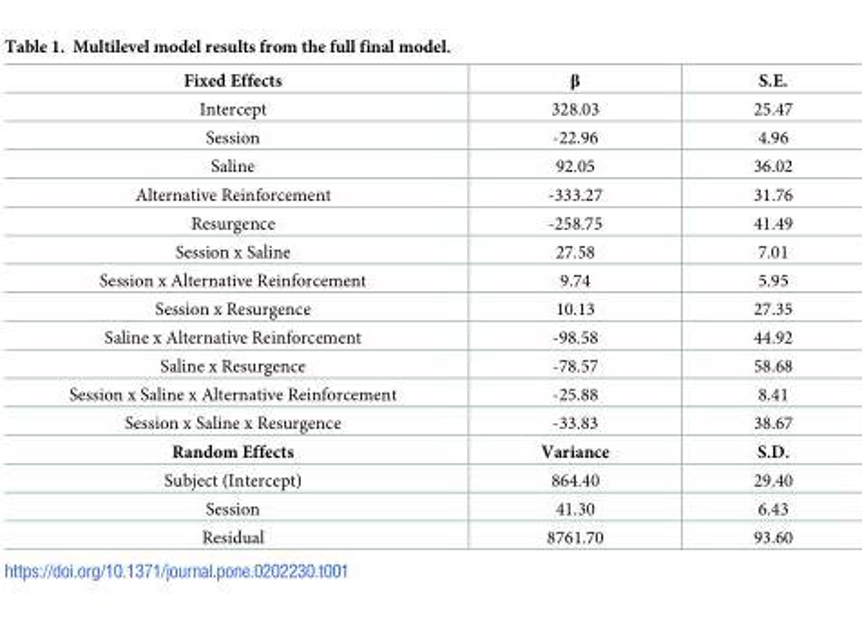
<table><thead><tr><td>Fixed Effects</td><td>β</td><td>S.E.</td></tr></thead><tbody><tr><td>Intercept</td><td>328.03</td><td>25.47</td></tr><tr><td>Session</td><td>-22.96</td><td>4.96</td></tr><tr><td>Saline</td><td>92.05</td><td>36.02</td></tr><tr><td>Alternative Reinforcement</td><td>-333.27</td><td>31.76</td></tr><tr><td>Resurgence</td><td>-258.75</td><td>41.49</td></tr><tr><td>Session x Saline</td><td>27.58</td><td>7.01</td></tr><tr><td>Session x Alternative Reinforcement</td><td>9.74</td><td>5.95</td></tr><tr><td>Session x Resurgence</td><td>10.13</td><td>27.35</td></tr><tr><td>Saline x Alternative Reinforcement</td><td>-98.58</td><td>44.92</td></tr><tr><td>Saline x Resurgence</td><td>-78.57</td><td>58.68</td></tr><tr><td>Session x Saline x Alternative Reinforcement</td><td>-25.88</td><td>8.41</td></tr><tr><td>Session x Saline x Resurgence</td><td>-33.83</td><td>38.67</td></tr><tr><td>Random Effects</td><td>Variance</td><td>S.D.</td></tr><tr><td>Subject (Intercept)</td><td>864.40</td><td>29.40</td></tr><tr><td>Session</td><td>41.30</td><td>6.43</td></tr><tr><td>Residual</td><td>8761.70</td><td>93.60</td></tr></tbody></table>